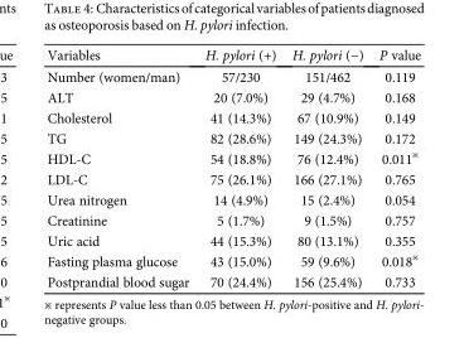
<table><thead><tr><td>Variables</td><td>H. pylori (+)</td><td>H. pylori (−)</td><td>P value</td></tr></thead><tbody><tr><td>Number (women/man)</td><td>57/230</td><td>151/462</td><td>0.119</td></tr><tr><td>ALT</td><td>20 (7.0%)</td><td>29 (4.7%)</td><td>0.168</td></tr><tr><td>Cholesterol</td><td>41 (14.3%)</td><td>67 (10.9%)</td><td>0.149</td></tr><tr><td>TG</td><td>82 (28.6%)</td><td>149 (24.3%)</td><td>0.172</td></tr><tr><td>HDL-C</td><td>54 (18.8%)</td><td>76 (12.4%)</td><td>0.011<sup>※</sup></td></tr><tr><td>LDL-C</td><td>75 (26.1%)</td><td>166 (27.1%)</td><td>0.765</td></tr><tr><td>Urea nitrogen</td><td>14 (4.9%)</td><td>15 (2.4%)</td><td>0.054</td></tr><tr><td>Creatinine</td><td>5 (1.7%)</td><td>9 (1.5%)</td><td>0.757</td></tr><tr><td>Uric acid</td><td>44 (15.3%)</td><td>80 (13.1%)</td><td>0.355</td></tr><tr><td>Fasting plasma glucose</td><td>43 (15.0%)</td><td>59 (9.6%)</td><td>0.018<sup>※</sup></td></tr><tr><td>Postprandial blood sugar</td><td>70 (24.4%)</td><td>156 (25.4%)</td><td>0.733</td></tr></tbody></table>